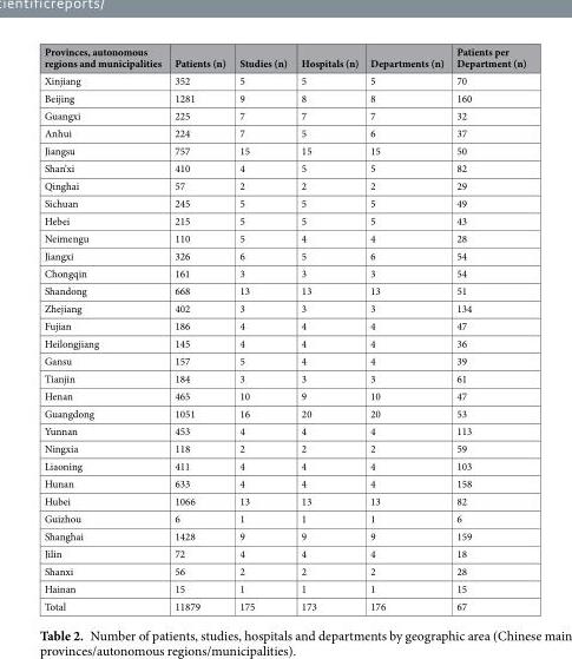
<table><thead><tr><td>Provinces, autonomous regions and municipalities</td><td>Patients (n)</td><td>Studies (n)</td><td>Hospitals (n)</td><td>Departments (n)</td><td>Patients per Department (n)</td></tr></thead><tbody><tr><td>Xinjiang</td><td>352</td><td>5</td><td>5</td><td>5</td><td>70</td></tr><tr><td>Beijing</td><td>1281</td><td>9</td><td>8</td><td>8</td><td>160</td></tr><tr><td>Guangxi</td><td>225</td><td>7</td><td>7</td><td>7</td><td>32</td></tr><tr><td>Anhui</td><td>224</td><td>7</td><td>5</td><td>6</td><td>37</td></tr><tr><td>Jiangsu</td><td>757</td><td>15</td><td>15</td><td>15</td><td>50</td></tr><tr><td>Shan’xi</td><td>410</td><td>4</td><td>5</td><td>5</td><td>82</td></tr><tr><td>Qinghai</td><td>57</td><td>2</td><td>2</td><td>2</td><td>29</td></tr><tr><td>Sichuan</td><td>245</td><td>5</td><td>5</td><td>5</td><td>49</td></tr><tr><td>Hebei</td><td>215</td><td>5</td><td>5</td><td>5</td><td>43</td></tr><tr><td>Neimengu</td><td>110</td><td>5</td><td>4</td><td>4</td><td>28</td></tr><tr><td>Jiangxi</td><td>326</td><td>6</td><td>5</td><td>6</td><td>54</td></tr><tr><td>Chongqin</td><td>161</td><td>3</td><td>3</td><td>3</td><td>54</td></tr><tr><td>Shandong</td><td>668</td><td>13</td><td>13</td><td>13</td><td>51</td></tr><tr><td>Zhejiang</td><td>402</td><td>3</td><td>3</td><td>3</td><td>134</td></tr><tr><td>Fujian</td><td>186</td><td>4</td><td>4</td><td>4</td><td>47</td></tr><tr><td>Heilongjiang</td><td>145</td><td>4</td><td>4</td><td>4</td><td>36</td></tr><tr><td>Gansu</td><td>157</td><td>5</td><td>4</td><td>4</td><td>39</td></tr><tr><td>Tianjin</td><td>184</td><td>3</td><td>3</td><td>3</td><td>61</td></tr><tr><td>Henan</td><td>465</td><td>10</td><td>9</td><td>10</td><td>47</td></tr><tr><td>Guangdong</td><td>1051</td><td>16</td><td>20</td><td>20</td><td>53</td></tr><tr><td>Yunnan</td><td>453</td><td>4</td><td>4</td><td>4</td><td>113</td></tr><tr><td>Ningxia</td><td>118</td><td>2</td><td>2</td><td>2</td><td>59</td></tr><tr><td>Liaoning</td><td>411</td><td>4</td><td>4</td><td>4</td><td>103</td></tr><tr><td>Hunan</td><td>633</td><td>4</td><td>4</td><td>4</td><td>158</td></tr><tr><td>Hubei</td><td>1066</td><td>13</td><td>13</td><td>13</td><td>82</td></tr><tr><td>Guizhou</td><td>6</td><td>1</td><td>1</td><td>1</td><td>6</td></tr><tr><td>Shanghai</td><td>1428</td><td>9</td><td>9</td><td>9</td><td>159</td></tr><tr><td>Jilin</td><td>72</td><td>4</td><td>4</td><td>4</td><td>18</td></tr><tr><td>Shanxi</td><td>56</td><td>2</td><td>2</td><td>2</td><td>28</td></tr><tr><td>Hainan</td><td>15</td><td>1</td><td>1</td><td>1</td><td>15</td></tr><tr><td>Total</td><td>11879</td><td>175</td><td>173</td><td>176</td><td>67</td></tr></tbody></table>